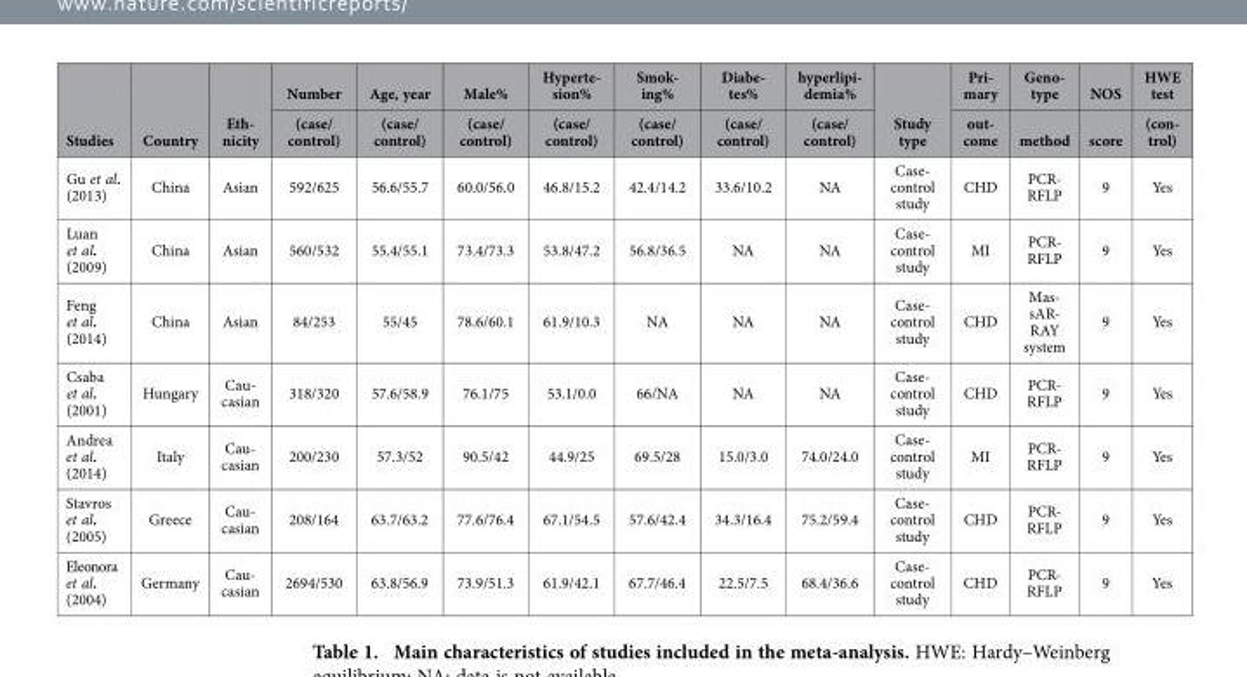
<table><thead><tr><td rowspan="2">Studies</td><td rowspan="2">Country</td><td rowspan="2">Eth- nicity</td><td rowspan="2">Number (case/ control)</td><td rowspan="2">Age, year (case/ control)</td><td rowspan="2">Male% (case/ control)</td><td rowspan="2">Hyperte- sion% (case/ control)</td><td rowspan="2">Smok- ing% (case/ control)</td><td rowspan="2">Diabe- tes% (case/ control)</td><td rowspan="2">hyperlipi- demia% (case/ control)</td><td rowspan="2">Study type</td><td rowspan="2">Pri- mary out- come</td><td rowspan="2">Geno- type method</td><td rowspan="2">NOS score</td><td rowspan="2">HWE test (con- trol)</td></tr><tr></tr></thead><tbody><tr><td>Gu et al. (2013)</td><td>China</td><td>Asian</td><td>592/625</td><td>56.6/55.7</td><td>60.0/56.0</td><td>46.8/15.2</td><td>42.4/14.2</td><td>33.6/10.2</td><td>NA</td><td>Case- control study</td><td>CHD</td><td>PCR- RFLP</td><td>9</td><td>Yes</td></tr><tr><td>Luan et al. (2009)</td><td>China</td><td>Asian</td><td>560/532</td><td>55.4/55.1</td><td>73.4/73.3</td><td>53.8/47.2</td><td>56.8/36.5</td><td>NA</td><td>NA</td><td>Case- control study</td><td>MI</td><td>PCR- RFLP</td><td>9</td><td>Yes</td></tr><tr><td>Feng et al. (2014)</td><td>China</td><td>Asian</td><td>84/253</td><td>55/45</td><td>78.6/60.1</td><td>61.9/10.3</td><td>NA</td><td>NA</td><td>NA</td><td>Case- control study</td><td>CHD</td><td>Mas- sAR- RAY system</td><td>9</td><td>Yes</td></tr><tr><td>Csaba et al. (2001)</td><td>Hungary</td><td>Cau- casian</td><td>318/320</td><td>57.6/58.9</td><td>76.1/75</td><td>53.1/0.0</td><td>66/NA</td><td>NA</td><td>NA</td><td>Case- control study</td><td>CHD</td><td>PCR- RFLP</td><td>9</td><td>Yes</td></tr><tr><td>Andrea et al. (2014)</td><td>Italy</td><td>Cau- casian</td><td>200/230</td><td>57.3/52</td><td>90.5/42</td><td>44.9/25</td><td>69.5/28</td><td>15.0/3.0</td><td>74.0/24.0</td><td>Case- control study</td><td>MI</td><td>PCR- RFLP</td><td>9</td><td>Yes</td></tr><tr><td>Stavros et al. (2005)</td><td>Greece</td><td>Cau- casian</td><td>208/164</td><td>63.7/63.2</td><td>77.6/76.4</td><td>67.1/54.5</td><td>57.6/42.4</td><td>34.3/16.4</td><td>75.2/59.4</td><td>Case- control study</td><td>CHD</td><td>PCR- RFLP</td><td>9</td><td>Yes</td></tr><tr><td>Eleonora et al. (2004)</td><td>Germany</td><td>Cau- casian</td><td>2694/530</td><td>63.8/56.9</td><td>73.9/51.3</td><td>61.9/42.1</td><td>67.7/46.4</td><td>22.5/7.5</td><td>68.4/36.6</td><td>Case- control study</td><td>CHD</td><td>PCR- RFLP</td><td>9</td><td>Yes</td></tr></tbody></table>